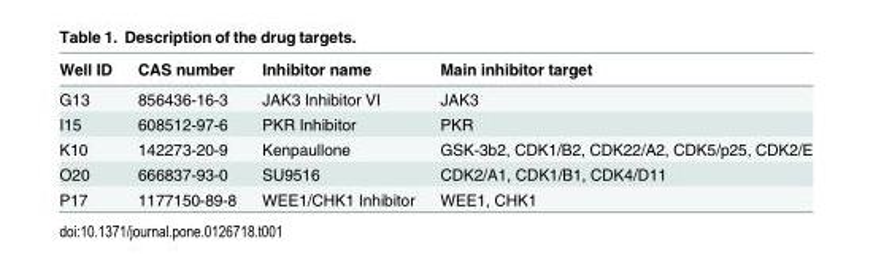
<table><thead><tr><td>Well ID</td><td>CAS number</td><td>Inhibitor name</td><td>Main inhibitor target</td></tr></thead><tbody><tr><td>G13</td><td>856436-16-3</td><td>JAK3 Inhibitor VI</td><td>JAK3</td></tr><tr><td>I15</td><td>608512-97-6</td><td>PKR Inhibitor</td><td>PKR</td></tr><tr><td>K10</td><td>142273-20-9</td><td>Kenpaullone</td><td>GSK-3b2, CDK1/B2, CDK22/A2, CDK5/p25, CDK2/E</td></tr><tr><td>O20</td><td>666837-93-0</td><td>SU9516</td><td>CDK2/A1, CDK1/B1, CDK4/D11</td></tr><tr><td>P17</td><td>1177150-89-8</td><td>WEE1/CHK1 Inhibitor</td><td>WEE1, CHK1</td></tr></tbody></table>